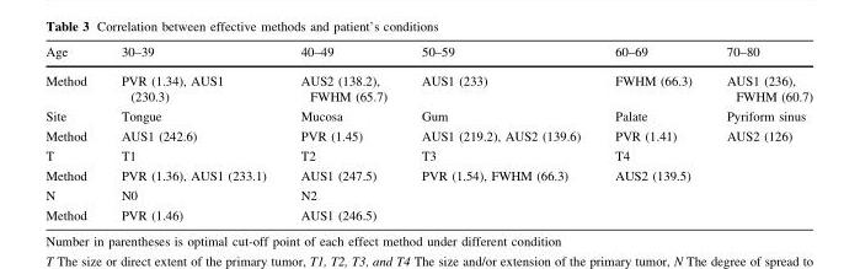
<table><thead><tr><td>Age</td><td>30–39</td><td>40–49</td><td>50–59</td><td>60–69</td><td>70–80</td></tr></thead><tbody><tr><td>Method</td><td>PVR (1.34), AUS1 (230.3)</td><td>AUS2 (138.2), FWHM (65.7)</td><td>AUS1 (233)</td><td>FWHM (66.3)</td><td>AUS1 (236), FWHM (60.7)</td></tr><tr><td>Site</td><td>Tongue</td><td>Mucosa</td><td>Gum</td><td>Palate</td><td>Pyriform sinus</td></tr><tr><td>Method</td><td>AUS1 (242.6)</td><td>PVR (1.45)</td><td>AUS1 (219.2), AUS2 (139.6)</td><td>PVR (1.41)</td><td>AUS2 (126)</td></tr><tr><td>T</td><td>T1</td><td>T2</td><td>T3</td><td>T4</td><td></td></tr><tr><td>Method</td><td>PVR (1.36), AUS1 (233.1)</td><td>AUS1 (247.5)</td><td>PVR (1.54), FWHM (66.3)</td><td>AUS2 (139.5)</td><td></td></tr><tr><td>N</td><td>N0</td><td>N2</td><td></td><td></td><td></td></tr><tr><td>Method</td><td>PVR (1.46)</td><td>AUS1 (246.5)</td><td></td><td></td><td></td></tr></tbody></table>